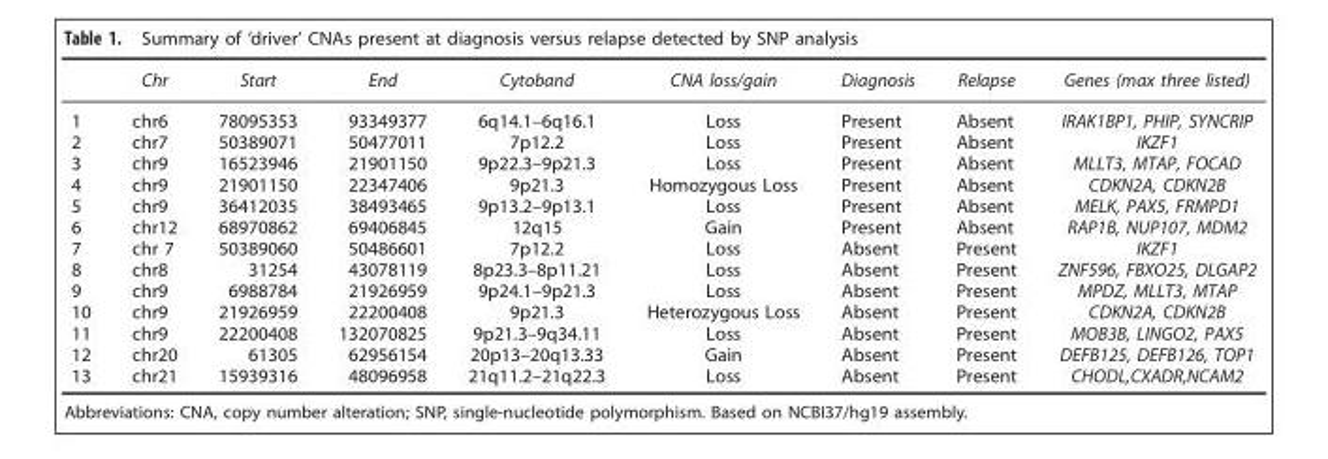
<table><thead><tr><td></td><td>Chr</td><td>Start</td><td>End</td><td>Cytoband</td><td>CNA loss/gain</td><td>Diagnosis</td><td>Relapse</td><td>Genes (max three listed)</td></tr></thead><tbody><tr><td>1</td><td>chr6</td><td>78095353</td><td>93349377</td><td>6q14.1–6q16.1</td><td>Loss</td><td>Present</td><td>Absent</td><td>IRAK1BP1, PHIP, SYNCRIP</td></tr><tr><td>2</td><td>chr7</td><td>50389071</td><td>50477011</td><td>7p12.2</td><td>Loss</td><td>Present</td><td>Absent</td><td>IKZF1</td></tr><tr><td>3</td><td>chr9</td><td>16523946</td><td>21901150</td><td>9p22.3–9p21.3</td><td>Loss</td><td>Present</td><td>Absent</td><td>MLLT3, MTAP, FOCAD</td></tr><tr><td>4</td><td>chr9</td><td>21901150</td><td>22347406</td><td>9p21.3</td><td>Homozygous Loss</td><td>Present</td><td>Absent</td><td>CDKN2A, CDKN2B</td></tr><tr><td>5</td><td>chr9</td><td>36412035</td><td>38493465</td><td>9p13.2–9p13.1</td><td>Loss</td><td>Present</td><td>Absent</td><td>MELK, PAX5, FRMPD1</td></tr><tr><td>6</td><td>chr12</td><td>68970862</td><td>69406845</td><td>12q15</td><td>Gain</td><td>Present</td><td>Absent</td><td>RAP1B, NUP107, MDM2</td></tr><tr><td>7</td><td>chr 7</td><td>50389060</td><td>50486601</td><td>7p12.2</td><td>Loss</td><td>Absent</td><td>Present</td><td>IKZF1</td></tr><tr><td>8</td><td>chr8</td><td>31254</td><td>43078119</td><td>8p23.3–8p11.21</td><td>Loss</td><td>Absent</td><td>Present</td><td>ZNF596, FBXO25, DLGAP2</td></tr><tr><td>9</td><td>chr9</td><td>6988784</td><td>21926959</td><td>9p24.1–9p21.3</td><td>Loss</td><td>Absent</td><td>Present</td><td>MPDZ, MLLT3, MTAP</td></tr><tr><td>10</td><td>chr9</td><td>21926959</td><td>22200408</td><td>9p21.3</td><td>Heterozygous Loss</td><td>Absent</td><td>Present</td><td>CDKN2A, CDKN2B</td></tr><tr><td>11</td><td>chr9</td><td>22200408</td><td>132070825</td><td>9p21.3–9q34.11</td><td>Loss</td><td>Absent</td><td>Present</td><td>MOB3B, LINGO2, PAX5</td></tr><tr><td>12</td><td>chr20</td><td>61305</td><td>62956154</td><td>20p13–20q13.33</td><td>Gain</td><td>Absent</td><td>Present</td><td>DEFB125, DEFB126, TOP1</td></tr><tr><td>13</td><td>chr21</td><td>15939316</td><td>48096958</td><td>21q11.2–21q22.3</td><td>Loss</td><td>Absent</td><td>Present</td><td>CHODL,CXADR,NCAM2</td></tr></tbody></table>